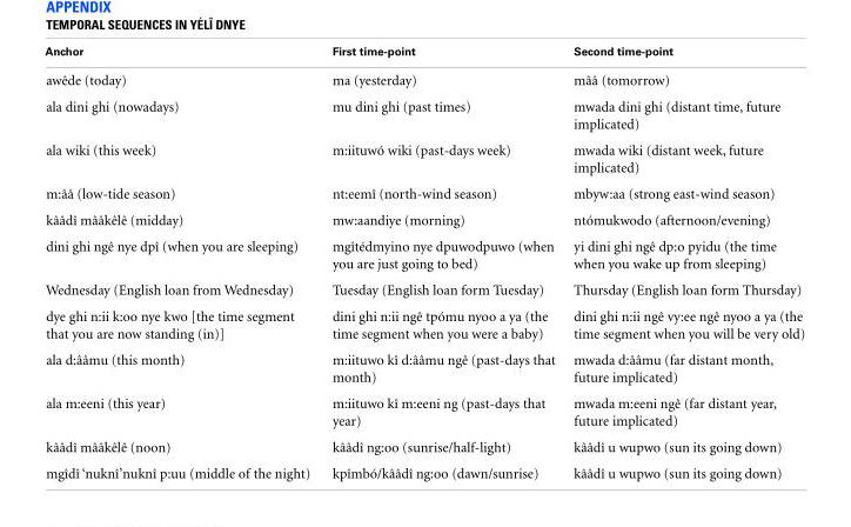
<table><tbody><tr><td>Anchor</td><td>First time-point</td><td>Second time-point</td></tr><tr><td>awêde (today)</td><td>ma (yesterday)</td><td>mââ (tomorrow)</td></tr><tr><td>ala dini ghi (nowadays)</td><td>mu dini ghi (past times)</td><td>mwada dini ghi (distant time, future implicated)</td></tr><tr><td>ala wiki (this week)</td><td>m:iituwó wiki (past-days week)</td><td>mwada wiki (distant week, future implicated)</td></tr><tr><td>m:ââ (low-tide season)</td><td>nt:eemî (north-wind season)</td><td>mbyw:aa (strong east-wind season)</td></tr><tr><td>kââdî mââkêlê (midday)</td><td>mw:aandiye (morning)</td><td>ntómukwodo (afternoon/evening)</td></tr><tr><td>dini ghi ngê nye dpî (when you are sleeping)</td><td>mgîtédmyino nye dpuwodpuwo (when you are just going to bed)</td><td>yi dini ghi ngê dp:o pyidu (the time when you wake up from sleeping)</td></tr><tr><td>Wednesday (English loan from Wednesday)</td><td>Tuesday (English loan form Tuesday)</td><td>Thursday (English loan form Thursday)</td></tr><tr><td>dye ghi n:ii k:oo nye kwo [the time segment that you are now standing (in)]</td><td>dini ghi n:ii ngê tpómu nyoo a ya (the time segment when you were a baby)</td><td>dini ghi n:ii ngê vy:ee ngê nyoo a ya (the time segment when you will be very old)</td></tr><tr><td>ala d:ââmu (this month)</td><td>m:iituwo kî d:ââmu ngê (past-days that month)</td><td>mwada d:ââmu (far distant month, future implicated)</td></tr><tr><td>ala m:eeni (this year)</td><td>m:iituwo kî m:eeni ng (past-days that year)</td><td>mwada m:eeni ngê (far distant year, future implicated)</td></tr><tr><td>kââdî mââkêlê (noon)</td><td>kââdî ng:oo (sunrise/half-light)</td><td>kââdî u wupwo (sun its going down)</td></tr><tr><td>mgîdî ‘nuknî’nuknî p:uu (middle of the night)</td><td>kpîmbó/kââdî ng:oo (dawn/sunrise)</td><td>kââdî u wupwo (sun its going down)</td></tr></tbody></table>